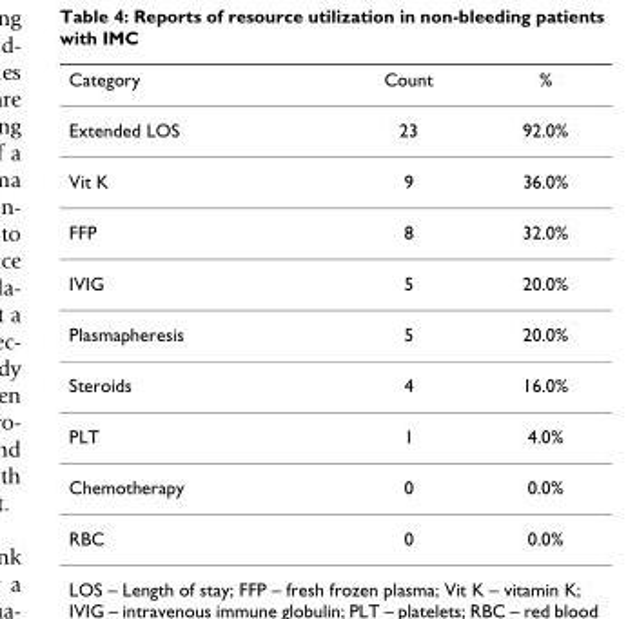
<table><thead><tr><td>Category</td><td>Count</td><td>%</td></tr></thead><tbody><tr><td>Extended LOS</td><td>23</td><td>92.0%</td></tr><tr><td>Vit K</td><td>9</td><td>36.0%</td></tr><tr><td>FFP</td><td>8</td><td>32.0%</td></tr><tr><td>IVIG</td><td>5</td><td>20.0%</td></tr><tr><td>Plasmapheresis</td><td>5</td><td>20.0%</td></tr><tr><td>Steroids</td><td>4</td><td>16.0%</td></tr><tr><td>PLT</td><td>1</td><td>4.0%</td></tr><tr><td>Chemotherapy</td><td>0</td><td>0.0%</td></tr><tr><td>RBC</td><td>0</td><td>0.0%</td></tr></tbody></table>